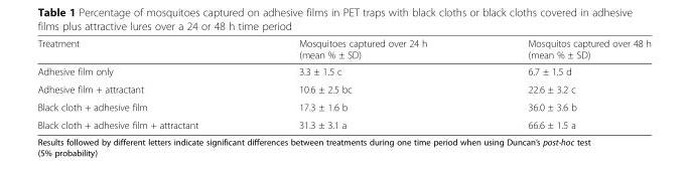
<table><thead><tr><td>Treatment</td><td>Mosquitoes captured over 24 h (mean % ± SD)</td><td>Mosquitos captured over 48 h (mean % ± SD)</td></tr></thead><tbody><tr><td>Adhesive film only</td><td>3.3 ± 1.5 c</td><td>6.7 ± 1.5 d</td></tr><tr><td>Adhesive film + attractant</td><td>10.6 ± 2.5 bc</td><td>22.6 ± 3.2 c</td></tr><tr><td>Black cloth + adhesive film</td><td>17.3 ± 1.6 b</td><td>36.0 ± 3.6 b</td></tr><tr><td>Black cloth + adhesive film + attractant</td><td>31.3 ± 3.1 a</td><td>66.6 ± 1.5 a</td></tr></tbody></table>